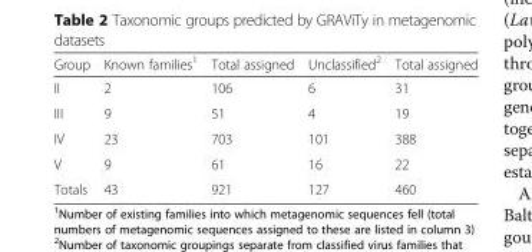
<table><thead><tr><td>Group</td><td>Known families<sup>1</sup></td><td>Total assigned</td><td>Unclassified<sup>2</sup></td><td>Total assigned</td></tr></thead><tbody><tr><td>II</td><td>2</td><td>106</td><td>6</td><td>31</td></tr><tr><td>III</td><td>9</td><td>51</td><td>4</td><td>19</td></tr><tr><td>IV</td><td>23</td><td>703</td><td>101</td><td>388</td></tr><tr><td>V</td><td>9</td><td>61</td><td>16</td><td>22</td></tr><tr><td>Totals</td><td>43</td><td>921</td><td>127</td><td>460</td></tr></tbody></table>